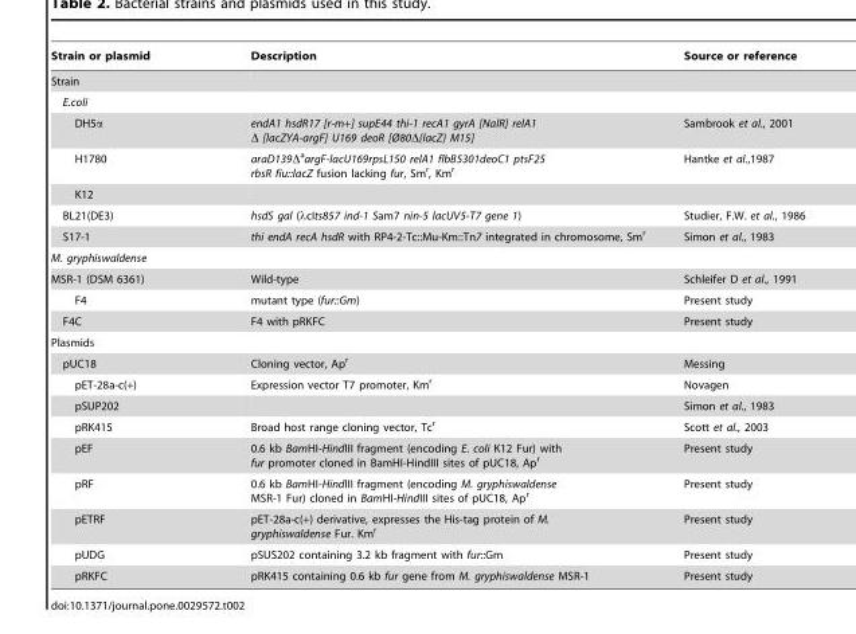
<table><thead><tr><td>Strain or plasmid</td><td>Description</td><td>Source or reference</td></tr></thead><tbody><tr><td colspan="3">Strain</td></tr><tr><td colspan="3">E.coli</td></tr><tr><td>DH5α</td><td>endA1 hsdR17 [r-m+] supE44 thi-1 recA1 gyrA [NalR] relA1 Δ [lacZYA-argF] U169 deoR [Ø80Δ{lacZ} M15]</td><td>Sambrook et al., 2001</td></tr><tr><td>H1780</td><td>araD139Δ<sup>a</sup>argF-lacU169rpsL150 relA1 flbB5301deoC1 ptsF25 rbsR fiu::lacZ fusion lacking fur, Sm<sup>r</sup>, Km<sup>r</sup></td><td>Hantke et al.,1987</td></tr><tr><td colspan="3">K12</td></tr><tr><td>BL21(DE3)</td><td>hsdS gal (λcIts857 ind-1 Sam7 nin-5 lacUV5-T7 gene 1)</td><td>Studier, F.W. et al., 1986</td></tr><tr><td>S17-1</td><td>thi endA recA hsdR with RP4-2-Tc::Mu-Km::Tn7 integrated in chromosome, Sm<sup>r</sup></td><td>Simon et al., 1983</td></tr><tr><td colspan="3">M. gryphiswaldense</td></tr><tr><td>MSR-1 (DSM 6361)</td><td>Wild-type</td><td>Schleifer D et al., 1991</td></tr><tr><td>F4</td><td>mutant type (fur::Gm)</td><td>Present study</td></tr><tr><td>F4C</td><td>F4 with pRKFC</td><td>Present study</td></tr><tr><td colspan="3">Plasmids</td></tr><tr><td>pUC18</td><td>Cloning vector, Ap<sup>r</sup></td><td>Messing</td></tr><tr><td>pET-28a-c(+)</td><td>Expression vector T7 promoter, Km<sup>r</sup></td><td>Novagen</td></tr><tr><td>pSUP202</td><td></td><td>Simon et al., 1983</td></tr><tr><td>pRK415</td><td>Broad host range cloning vector, Tc<sup>r</sup></td><td>Scott et al., 2003</td></tr><tr><td>pEF</td><td>0.6 kb BamHI-HindIII fragment (encoding E. coli K12 Fur) with fur promoter cloned in BamHI-HindIII sites of pUC18, Ap<sup>r</sup></td><td>Present study</td></tr><tr><td>pRF</td><td>0.6 kb BamHI-HindIII fragment (encoding M. gryphiswaldense MSR-1 Fur) cloned in BamHI-HindIII sites of pUC18, Ap<sup>r</sup></td><td>Present study</td></tr><tr><td>pETRF</td><td>pET-28a-c(+) derivative, expresses the His-tag protein of M. gryphiswaldense Fur. Km<sup>r</sup></td><td>Present study</td></tr><tr><td>pUDG</td><td>pSUS202 containing 3.2 kb fragment with fur::Gm</td><td>Present study</td></tr><tr><td>pRKFC</td><td>pRK415 containing 0.6 kb fur gene from M. gryphiswaldense MSR-1</td><td>Present study</td></tr></tbody></table>